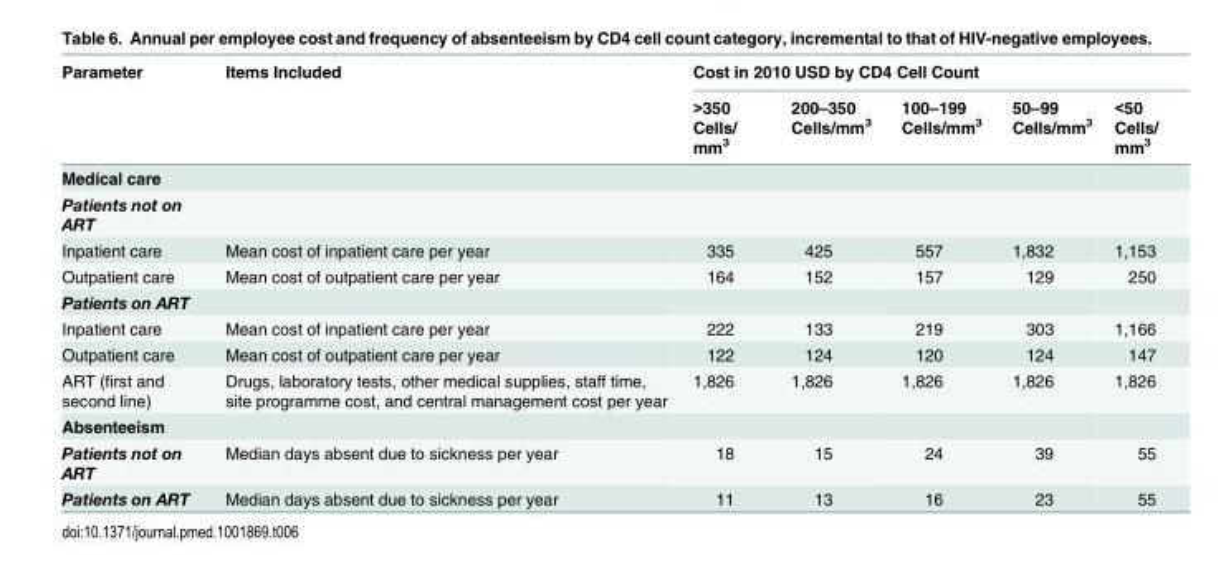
<table><thead><tr><td rowspan="2">Parameter</td><td rowspan="2">Items Included</td><td colspan="5">Cost in 2010 USD by CD4 Cell Count</td></tr><tr><td>&gt;350 Cells/ mm<sup>3</sup></td><td>200–350 Cells/mm<sup>3</sup></td><td>100–199 Cells/mm<sup>3</sup></td><td>50–99 Cells/mm<sup>3</sup></td><td>&lt;50 Cells/ mm<sup>3</sup></td></tr></thead><tbody><tr><td colspan="7">Medical care</td></tr><tr><td colspan="7">Patients not on ART</td></tr><tr><td>Inpatient care</td><td>Mean cost of inpatient care per year</td><td>335</td><td>425</td><td>557</td><td>1,832</td><td>1,153</td></tr><tr><td>Outpatient care</td><td>Mean cost of outpatient care per year</td><td>164</td><td>152</td><td>157</td><td>129</td><td>250</td></tr><tr><td colspan="7">Patients on ART</td></tr><tr><td>Inpatient care</td><td>Mean cost of inpatient care per year</td><td>222</td><td>133</td><td>219</td><td>303</td><td>1,166</td></tr><tr><td>Outpatient care</td><td>Mean cost of outpatient care per year</td><td>122</td><td>124</td><td>120</td><td>124</td><td>147</td></tr><tr><td>ART (first and second line)</td><td>Drugs, laboratory tests, other medical supplies, staff time, site programme cost, and central management cost per year</td><td>1,826</td><td>1,826</td><td>1,826</td><td>1,826</td><td>1,826</td></tr><tr><td colspan="7">Absenteeism</td></tr><tr><td>Patients not on ART</td><td>Median days absent due to sickness per year</td><td>18</td><td>15</td><td>24</td><td>39</td><td>55</td></tr><tr><td>Patients on ART</td><td>Median days absent due to sickness per year</td><td>11</td><td>13</td><td>16</td><td>23</td><td>55</td></tr></tbody></table>